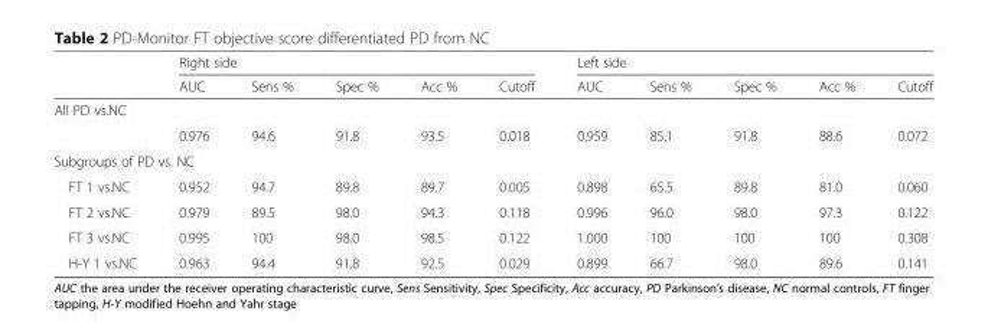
<table><thead><tr><td rowspan="2"></td><td colspan="5">Right side</td><td colspan="5">Left side</td></tr><tr><td>AUC</td><td>Sens %</td><td>Spec %</td><td>Acc %</td><td>Cutoff</td><td>AUC</td><td>Sens %</td><td>Spec %</td><td>Acc %</td><td>Cutoff</td></tr></thead><tbody><tr><td colspan="11">All PD vs.NC</td></tr><tr><td></td><td>0.976</td><td>94.6</td><td>91.8</td><td>93.5</td><td>0.018</td><td>0.959</td><td>85.1</td><td>91.8</td><td>88.6</td><td>0.072</td></tr><tr><td colspan="11">Subgroups of PD vs. NC</td></tr><tr><td>FT 1 vs.NC</td><td>0.952</td><td>94.7</td><td>89.8</td><td>89.7</td><td>0.005</td><td>0.898</td><td>65.5</td><td>89.8</td><td>81.0</td><td>0.060</td></tr><tr><td>FT 2 vs.NC</td><td>0.979</td><td>89.5</td><td>98.0</td><td>94.3</td><td>0.118</td><td>0.996</td><td>96.0</td><td>98.0</td><td>97.3</td><td>0.122</td></tr><tr><td>FT 3 vs.NC</td><td>0.995</td><td>100</td><td>98.0</td><td>98.5</td><td>0.122</td><td>1.000</td><td>100</td><td>100</td><td>100</td><td>0.308</td></tr><tr><td>H-Y 1 vs.NC</td><td>0.963</td><td>94.4</td><td>91.8</td><td>92.5</td><td>0.029</td><td>0.899</td><td>66.7</td><td>98.0</td><td>89.6</td><td>0.141</td></tr></tbody></table>